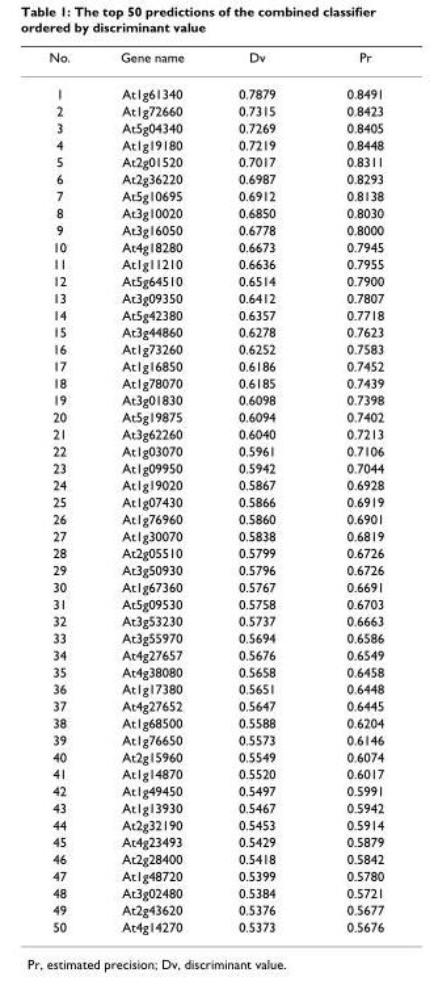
<table><thead><tr><td>No.</td><td>Gene name</td><td>Dv</td><td>Pr</td></tr></thead><tbody><tr><td>1</td><td>At1g61340</td><td>0.7879</td><td>0.8491</td></tr><tr><td>2</td><td>At1g72660</td><td>0.7315</td><td>0.8423</td></tr><tr><td>3</td><td>At5g04340</td><td>0.7269</td><td>0.8405</td></tr><tr><td>4</td><td>At1g19180</td><td>0.7219</td><td>0.8448</td></tr><tr><td>5</td><td>At2g01520</td><td>0.7017</td><td>0.8311</td></tr><tr><td>6</td><td>At2g36220</td><td>0.6987</td><td>0.8293</td></tr><tr><td>7</td><td>At5g10695</td><td>0.6912</td><td>0.8138</td></tr><tr><td>8</td><td>At3g10020</td><td>0.6850</td><td>0.8030</td></tr><tr><td>9</td><td>At3g16050</td><td>0.6778</td><td>0.8000</td></tr><tr><td>10</td><td>At4g18280</td><td>0.6673</td><td>0.7945</td></tr><tr><td>11</td><td>At1g11210</td><td>0.6636</td><td>0.7955</td></tr><tr><td>12</td><td>At5g64510</td><td>0.6514</td><td>0.7900</td></tr><tr><td>13</td><td>At3g09350</td><td>0.6412</td><td>0.7807</td></tr><tr><td>14</td><td>At5g42380</td><td>0.6357</td><td>0.7718</td></tr><tr><td>15</td><td>At3g44860</td><td>0.6278</td><td>0.7623</td></tr><tr><td>16</td><td>At1g73260</td><td>0.6252</td><td>0.7583</td></tr><tr><td>17</td><td>At1g16850</td><td>0.6186</td><td>0.7452</td></tr><tr><td>18</td><td>At1g78070</td><td>0.6185</td><td>0.7439</td></tr><tr><td>19</td><td>At3g01830</td><td>0.6098</td><td>0.7398</td></tr><tr><td>20</td><td>At5g19875</td><td>0.6094</td><td>0.7402</td></tr><tr><td>21</td><td>At3g62260</td><td>0.6040</td><td>0.7213</td></tr><tr><td>22</td><td>At1g03070</td><td>0.5961</td><td>0.7106</td></tr><tr><td>23</td><td>At1g09950</td><td>0.5942</td><td>0.7044</td></tr><tr><td>24</td><td>At1g19020</td><td>0.5867</td><td>0.6928</td></tr><tr><td>25</td><td>At1g07430</td><td>0.5866</td><td>0.6919</td></tr><tr><td>26</td><td>At1g76960</td><td>0.5860</td><td>0.6901</td></tr><tr><td>27</td><td>At1g30070</td><td>0.5838</td><td>0.6819</td></tr><tr><td>28</td><td>At2g05510</td><td>0.5799</td><td>0.6726</td></tr><tr><td>29</td><td>At3g50930</td><td>0.5796</td><td>0.6726</td></tr><tr><td>30</td><td>At1g67360</td><td>0.5767</td><td>0.6691</td></tr><tr><td>31</td><td>At5g09530</td><td>0.5758</td><td>0.6703</td></tr><tr><td>32</td><td>At3g53230</td><td>0.5737</td><td>0.6663</td></tr><tr><td>33</td><td>At3g55970</td><td>0.5694</td><td>0.6586</td></tr><tr><td>34</td><td>At4g27657</td><td>0.5676</td><td>0.6549</td></tr><tr><td>35</td><td>At4g38080</td><td>0.5658</td><td>0.6458</td></tr><tr><td>36</td><td>At1g17380</td><td>0.5651</td><td>0.6448</td></tr><tr><td>37</td><td>At4g27652</td><td>0.5647</td><td>0.6445</td></tr><tr><td>38</td><td>At1g68500</td><td>0.5588</td><td>0.6204</td></tr><tr><td>39</td><td>At1g76650</td><td>0.5573</td><td>0.6146</td></tr><tr><td>40</td><td>At2g15960</td><td>0.5549</td><td>0.6074</td></tr><tr><td>41</td><td>At1g14870</td><td>0.5520</td><td>0.6017</td></tr><tr><td>42</td><td>At1g49450</td><td>0.5497</td><td>0.5991</td></tr><tr><td>43</td><td>At1g13930</td><td>0.5467</td><td>0.5942</td></tr><tr><td>44</td><td>At2g32190</td><td>0.5453</td><td>0.5914</td></tr><tr><td>45</td><td>At4g23493</td><td>0.5429</td><td>0.5879</td></tr><tr><td>46</td><td>At2g28400</td><td>0.5418</td><td>0.5842</td></tr><tr><td>47</td><td>At1g48720</td><td>0.5399</td><td>0.5780</td></tr><tr><td>48</td><td>At3g02480</td><td>0.5384</td><td>0.5721</td></tr><tr><td>49</td><td>At2g43620</td><td>0.5376</td><td>0.5677</td></tr><tr><td>50</td><td>At4g14270</td><td>0.5373</td><td>0.5676</td></tr></tbody></table>